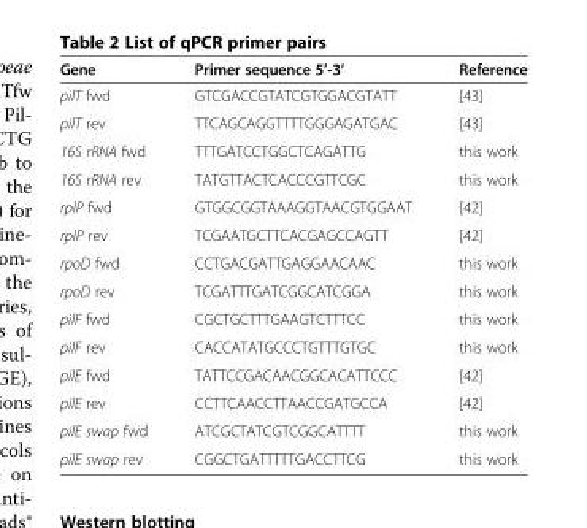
<table><thead><tr><td>Gene</td><td>Primer sequence 5’-3’</td><td>Reference</td></tr></thead><tbody><tr><td>pilT fwd</td><td>GTCGACCGTATCGTGGACGTATT</td><td>[43]</td></tr><tr><td>pilT rev</td><td>TTCAGCAGGTTTTGGGAGATGAC</td><td>[43]</td></tr><tr><td>16S rRNA fwd</td><td>TTTGATCCTGGCTCAGATTG</td><td>this work</td></tr><tr><td>16S rRNA rev</td><td>TATGTTACTCACCCGTTCGC</td><td>this work</td></tr><tr><td>rplP fwd</td><td>GTGGCGGTAAAGGTAACGTGGAAT</td><td>[42]</td></tr><tr><td>rplP rev</td><td>TCGAATGCTTCACGAGCCAGTT</td><td>[42]</td></tr><tr><td>rpoD fwd</td><td>CCTGACGATTGAGGAACAAC</td><td>this work</td></tr><tr><td>rpoD rev</td><td>TCGATTTGATCGGCATCGGA</td><td>this work</td></tr><tr><td>pilF fwd</td><td>CGCTGCTTTGAAGTCTTTCC</td><td>this work</td></tr><tr><td>pilF rev</td><td>CACCATATGCCCTGTTTGTGC</td><td>this work</td></tr><tr><td>pilE fwd</td><td>TATTCCGACAACGGCACATTCCC</td><td>[42]</td></tr><tr><td>pilE rev</td><td>CCTTCAACCTTAACCGATGCCA</td><td>[42]</td></tr><tr><td>pilE swap fwd</td><td>ATCGCTATCGTCGGCATTTT</td><td>this work</td></tr><tr><td>pilE swap rev</td><td>CGGCTGATTTTTGACCTTCG</td><td>this work</td></tr></tbody></table>